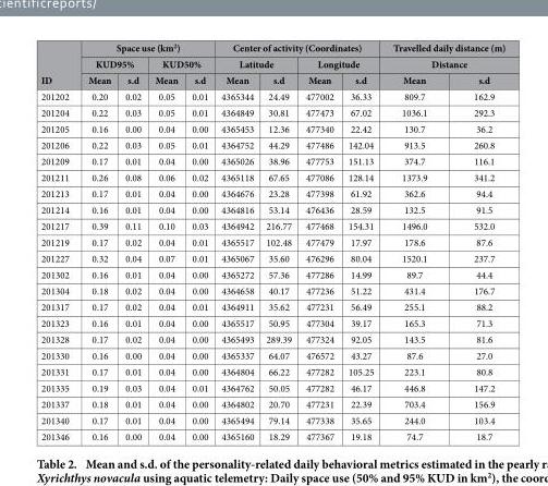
<table><thead><tr><td rowspan="3">ID</td><td colspan="4">Space use (km<sup>2</sup>)</td><td colspan="4">Center of activity (Coordinates)</td><td rowspan="2" colspan="2">Travelled daily distance (m) Distance</td></tr><tr><td colspan="2">KUD95%</td><td colspan="2">KUD50%</td><td colspan="2">Latitude</td><td colspan="2">Longitude</td></tr><tr><td>Mean</td><td>s.d</td><td>Mean</td><td>s.d</td><td>Mean</td><td>s.d</td><td>Mean</td><td>s.d</td><td>Mean</td><td>s.d</td></tr></thead><tbody><tr><td>201202</td><td>0.20</td><td>0.02</td><td>0.05</td><td>0.01</td><td>4365344</td><td>24.49</td><td>477002</td><td>36.33</td><td>809.7</td><td>162.9</td></tr><tr><td>201204</td><td>0.22</td><td>0.03</td><td>0.05</td><td>0.01</td><td>4364849</td><td>30.81</td><td>477473</td><td>67.02</td><td>1036.1</td><td>292.3</td></tr><tr><td>201205</td><td>0.16</td><td>0.00</td><td>0.04</td><td>0.00</td><td>4365453</td><td>12.36</td><td>477340</td><td>22.42</td><td>130.7</td><td>36.2</td></tr><tr><td>201206</td><td>0.22</td><td>0.03</td><td>0.05</td><td>0.01</td><td>4364752</td><td>44.29</td><td>477486</td><td>142.04</td><td>913.5</td><td>260.8</td></tr><tr><td>201209</td><td>0.17</td><td>0.01</td><td>0.04</td><td>0.00</td><td>4365026</td><td>38.96</td><td>477753</td><td>151.13</td><td>374.7</td><td>116.1</td></tr><tr><td>201211</td><td>0.26</td><td>0.08</td><td>0.06</td><td>0.02</td><td>4365118</td><td>67.65</td><td>477086</td><td>128.14</td><td>1373.9</td><td>341.2</td></tr><tr><td>201213</td><td>0.17</td><td>0.01</td><td>0.04</td><td>0.00</td><td>4364676</td><td>23.28</td><td>477398</td><td>61.92</td><td>362.6</td><td>94.4</td></tr><tr><td>201214</td><td>0.16</td><td>0.01</td><td>0.04</td><td>0.00</td><td>4364816</td><td>53.14</td><td>476436</td><td>28.59</td><td>132.5</td><td>91.5</td></tr><tr><td>201217</td><td>0.39</td><td>0.11</td><td>0.10</td><td>0.03</td><td>4364942</td><td>216.77</td><td>477468</td><td>154.31</td><td>1496.0</td><td>532.0</td></tr><tr><td>201219</td><td>0.17</td><td>0.02</td><td>0.04</td><td>0.01</td><td>4365517</td><td>102.48</td><td>477479</td><td>17.97</td><td>178.6</td><td>87.6</td></tr><tr><td>201227</td><td>0.32</td><td>0.04</td><td>0.07</td><td>0.01</td><td>4365067</td><td>35.60</td><td>476296</td><td>80.04</td><td>1520.1</td><td>237.7</td></tr><tr><td>201302</td><td>0.16</td><td>0.01</td><td>0.04</td><td>0.00</td><td>4365272</td><td>57.36</td><td>477286</td><td>14.99</td><td>89.7</td><td>44.4</td></tr><tr><td>201304</td><td>0.18</td><td>0.02</td><td>0.04</td><td>0.00</td><td>4364658</td><td>40.17</td><td>477236</td><td>51.22</td><td>431.4</td><td>176.7</td></tr><tr><td>201317</td><td>0.17</td><td>0.02</td><td>0.04</td><td>0.01</td><td>4364911</td><td>35.62</td><td>477231</td><td>56.49</td><td>255.1</td><td>88.2</td></tr><tr><td>201323</td><td>0.16</td><td>0.01</td><td>0.04</td><td>0.00</td><td>4365517</td><td>50.95</td><td>477304</td><td>39.17</td><td>165.3</td><td>71.3</td></tr><tr><td>201328</td><td>0.17</td><td>0.02</td><td>0.04</td><td>0.00</td><td>4365493</td><td>289.39</td><td>477324</td><td>92.05</td><td>143.5</td><td>81.6</td></tr><tr><td>201330</td><td>0.16</td><td>0.00</td><td>0.04</td><td>0.00</td><td>4365337</td><td>64.07</td><td>476572</td><td>43.27</td><td>87.6</td><td>27.0</td></tr><tr><td>201331</td><td>0.17</td><td>0.01</td><td>0.04</td><td>0.00</td><td>4364804</td><td>66.22</td><td>477282</td><td>105.25</td><td>223.1</td><td>80.8</td></tr><tr><td>201335</td><td>0.19</td><td>0.03</td><td>0.04</td><td>0.01</td><td>4364762</td><td>50.05</td><td>477282</td><td>46.17</td><td>446.8</td><td>147.2</td></tr><tr><td>201337</td><td>0.18</td><td>0.01</td><td>0.04</td><td>0.00</td><td>4364802</td><td>20.70</td><td>477231</td><td>22.39</td><td>703.4</td><td>156.9</td></tr><tr><td>201340</td><td>0.17</td><td>0.01</td><td>0.04</td><td>0.00</td><td>4365494</td><td>79.14</td><td>477338</td><td>35.65</td><td>244.0</td><td>103.4</td></tr><tr><td>201346</td><td>0.16</td><td>0.00</td><td>0.04</td><td>0.00</td><td>4365160</td><td>18.29</td><td>477367</td><td>19.18</td><td>74.7</td><td>18.7</td></tr></tbody></table>